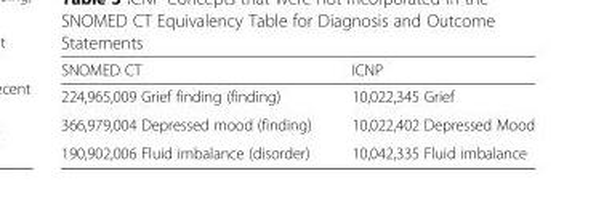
<table><thead><tr><td>SNOMED CT</td><td>ICNP</td></tr></thead><tbody><tr><td>224,965,009 Grief finding (finding)</td><td>10,022,345 Grief</td></tr><tr><td>366,979,004 Depressed mood (finding)</td><td>10,022,402 Depressed Mood</td></tr><tr><td>190,902,006 Fluid imbalance (disorder)</td><td>10,042,335 Fluid imbalance</td></tr></tbody></table>